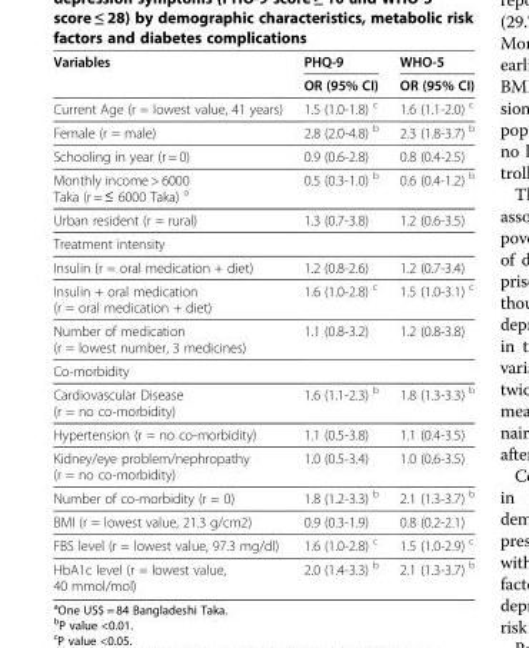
<table><thead><tr><td rowspan="2">Variables</td><td rowspan="2">PHQ-9 OR (95% CI)</td><td rowspan="2">WHO-5 OR (95% CI)</td></tr><tr></tr></thead><tbody><tr><td>Current Age (r = lowest value, 41 years)</td><td>1.5 (1.0-1.8) <sup>c</sup></td><td>1.6 (1.1-2.0) <sup>c</sup></td></tr><tr><td>Female (r = male)</td><td>2.8 (2.0-4.8) <sup>b</sup></td><td>2.3 (1.8-3.7) <sup>b</sup></td></tr><tr><td>Schooling in year (r = 0)</td><td>0.9 (0.6-2.8)</td><td>0.8 (0.4-2.5)</td></tr><tr><td>Monthly income &gt; 6000 Taka (r = ≤ 6000 Taka) <sup>a</sup></td><td>0.5 (0.3-1.0) <sup>b</sup></td><td>0.6 (0.4-1.2) <sup>b</sup></td></tr><tr><td>Urban resident (r = rural)</td><td>1.3 (0.7-3.8)</td><td>1.2 (0.6-3.5)</td></tr><tr><td colspan="3">Treatment intensity</td></tr><tr><td>Insulin (r = oral medication + diet)</td><td>1.2 (0.8-2.6)</td><td>1.2 (0.7-3.4)</td></tr><tr><td>Insulin + oral medication (r = oral medication + diet)</td><td>1.6 (1.0-2.8) <sup>c</sup></td><td>1.5 (1.0-3.1) <sup>c</sup></td></tr><tr><td>Number of medication (r = lowest number, 3 medicines)</td><td>1.1 (0.8-3.2)</td><td>1.2 (0.8-3.8)</td></tr><tr><td colspan="3">Co-morbidity</td></tr><tr><td>Cardiovascular Disease (r = no co-morbidity)</td><td>1.6 (1.1-2.3) <sup>b</sup></td><td>1.8 (1.3-3.3) <sup>b</sup></td></tr><tr><td>Hypertension (r = no co-morbidity)</td><td>1.1 (0.5-3.8)</td><td>1.1 (0.4-3.5)</td></tr><tr><td>Kidney/eye problem/nephropathy (r = no co-morbidity)</td><td>1.0 (0.5-3.4)</td><td>1.0 (0.6-3.5)</td></tr><tr><td>Number of co-morbidity (r = 0)</td><td>1.8 (1.2-3.3) <sup>b</sup></td><td>2.1 (1.3-3.7) <sup>b</sup></td></tr><tr><td>BMI (r = lowest value, 21.3 g/cm2)</td><td>0.9 (0.3-1.9)</td><td>0.8 (0.2-2.1)</td></tr><tr><td>FBS level (r = lowest value, 97.3 mg/dl)</td><td>1.6 (1.0-2.8) <sup>c</sup></td><td>1.5 (1.0-2.9) <sup>c</sup></td></tr><tr><td>HbA1c level (r = lowest value, 40 mmol/mol)</td><td>2.0 (1.4-3.3) <sup>b</sup></td><td>2.1 (1.3-3.7) <sup>b</sup></td></tr></tbody></table>